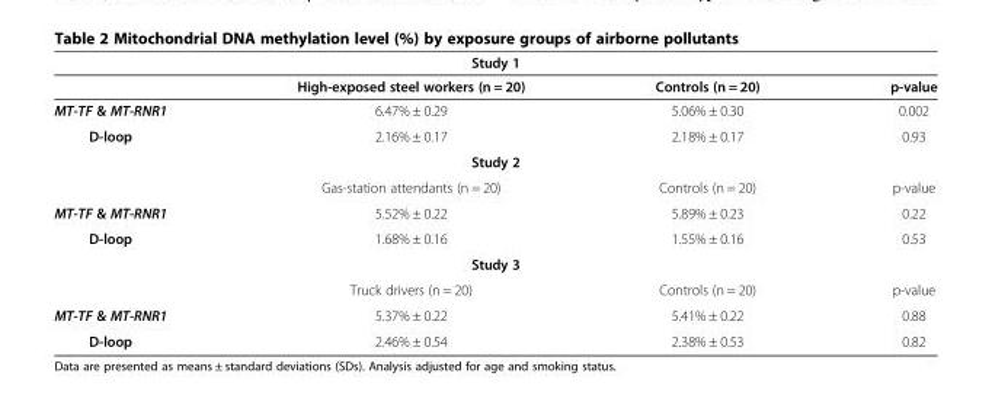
<table><thead><tr><td colspan="4">Study 1</td></tr><tr><td></td><td>High-exposed steel workers (n = 20)</td><td>Controls (n = 20)</td><td>p-value</td></tr></thead><tbody><tr><td>MT-TF &amp; MT-RNR1</td><td>6.47% ± 0.29</td><td>5.06% ± 0.30</td><td>0.002</td></tr><tr><td>D-loop</td><td>2.16% ± 0.17</td><td>2.18% ± 0.17</td><td>0.93</td></tr><tr><td colspan="4">Study 2</td></tr><tr><td></td><td>Gas-station attendants (n = 20)</td><td>Controls (n = 20)</td><td>p-value</td></tr><tr><td>MT-TF &amp; MT-RNR1</td><td>5.52% ± 0.22</td><td>5.89% ± 0.23</td><td>0.22</td></tr><tr><td>D-loop</td><td>1.68% ± 0.16</td><td>1.55% ± 0.16</td><td>0.53</td></tr><tr><td colspan="4">Study 3</td></tr><tr><td></td><td>Truck drivers (n = 20)</td><td>Controls (n = 20)</td><td>p-value</td></tr><tr><td>MT-TF &amp; MT-RNR1</td><td>5.37% ± 0.22</td><td>5.41% ± 0.22</td><td>0.88</td></tr><tr><td>D-loop</td><td>2.46% ± 0.54</td><td>2.38% ± 0.53</td><td>0.82</td></tr></tbody></table>